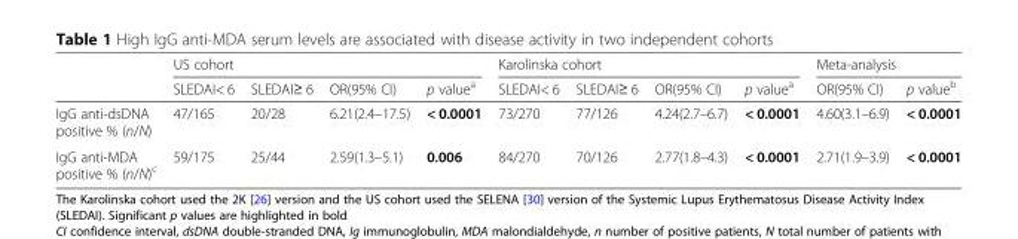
<table><thead><tr><td rowspan="2"></td><td colspan="4">US cohort</td><td colspan="4">Karolinska cohort</td><td colspan="2">Meta-analysis</td></tr><tr><td>SLEDAI&lt; 6</td><td>SLEDAI≥ 6</td><td>OR(95% CI)</td><td>p value<sup>a</sup></td><td>SLEDAI&lt; 6</td><td>SLEDAI≥ 6</td><td>OR(95% CI)</td><td>p value<sup>a</sup></td><td>OR(95% CI)</td><td>p value<sup>b</sup></td></tr></thead><tbody><tr><td>IgG anti-dsDNA positive % (n/N)</td><td>47/165</td><td>20/28</td><td>6.21(2.4–17.5)</td><td>&lt; 0.0001</td><td>73/270</td><td>77/126</td><td>4.24(2.7–6.7)</td><td>&lt; 0.0001</td><td>4.60(3.1–6.9)</td><td>&lt; 0.0001</td></tr><tr><td>IgG anti-MDA positive % (n/N)<sup>c</sup></td><td>59/175</td><td>25/44</td><td>2.59(1.3–5.1)</td><td>0.006</td><td>84/270</td><td>70/126</td><td>2.77(1.8–4.3)</td><td>&lt; 0.0001</td><td>2.71(1.9–3.9)</td><td>&lt; 0.0001</td></tr></tbody></table>